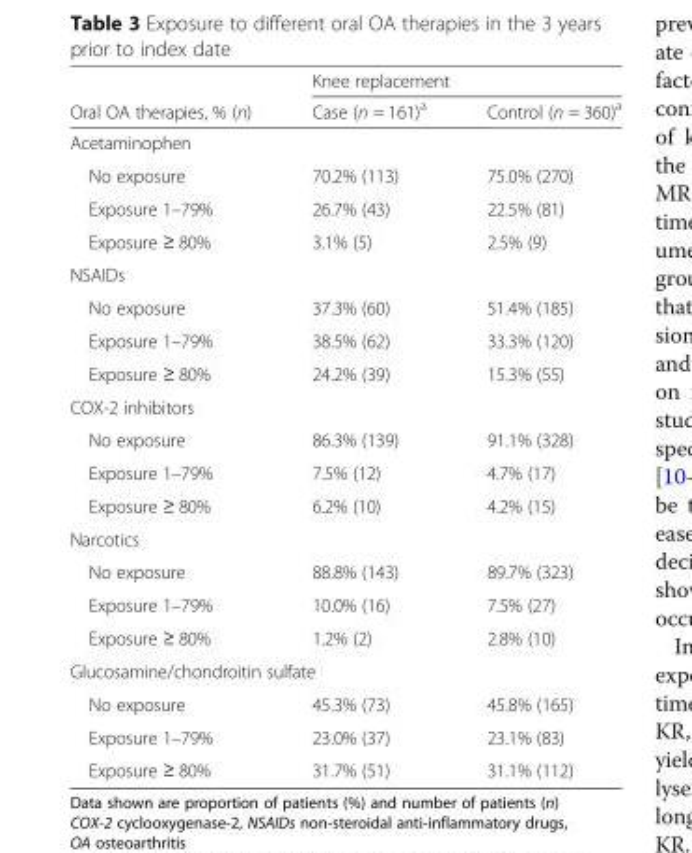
<table><thead><tr><td rowspan="2">Oral OA therapies, % (n)</td><td colspan="2">Knee replacement</td></tr><tr><td>Case (n = 161)<sup>a</sup></td><td>Control (n = 360)<sup>a</sup></td></tr></thead><tbody><tr><td colspan="3">Acetaminophen</td></tr><tr><td>No exposure</td><td>70.2% (113)</td><td>75.0% (270)</td></tr><tr><td>Exposure 1–79%</td><td>26.7% (43)</td><td>22.5% (81)</td></tr><tr><td>Exposure ≥ 80%</td><td>3.1% (5)</td><td>2.5% (9)</td></tr><tr><td colspan="3">NSAIDs</td></tr><tr><td>No exposure</td><td>37.3% (60)</td><td>51.4% (185)</td></tr><tr><td>Exposure 1–79%</td><td>38.5% (62)</td><td>33.3% (120)</td></tr><tr><td>Exposure ≥ 80%</td><td>24.2% (39)</td><td>15.3% (55)</td></tr><tr><td colspan="3">COX-2 inhibitors</td></tr><tr><td>No exposure</td><td>86.3% (139)</td><td>91.1% (328)</td></tr><tr><td>Exposure 1–79%</td><td>7.5% (12)</td><td>4.7% (17)</td></tr><tr><td>Exposure ≥ 80%</td><td>6.2% (10)</td><td>4.2% (15)</td></tr><tr><td colspan="3">Narcotics</td></tr><tr><td>No exposure</td><td>88.8% (143)</td><td>89.7% (323)</td></tr><tr><td>Exposure 1–79%</td><td>10.0% (16)</td><td>7.5% (27)</td></tr><tr><td>Exposure ≥ 80%</td><td>1.2% (2)</td><td>2.8% (10)</td></tr><tr><td colspan="3">Glucosamine/chondroitin sulfate</td></tr><tr><td>No exposure</td><td>45.3% (73)</td><td>45.8% (165)</td></tr><tr><td>Exposure 1–79%</td><td>23.0% (37)</td><td>23.1% (83)</td></tr><tr><td>Exposure ≥ 80%</td><td>31.7% (51)</td><td>31.1% (112)</td></tr></tbody></table>